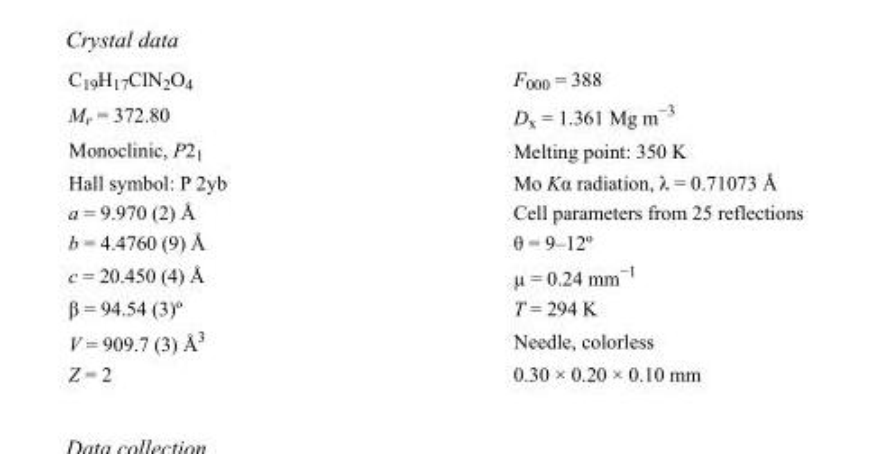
<table><tbody><tr><td>C<sub>19</sub>H<sub>17</sub>ClN<sub>2</sub>O<sub>4</sub></td><td>F000 = 388</td></tr><tr><td>M<sub>r</sub> = 372.80</td><td>D<sub>x</sub> = 1.361 Mg m<sup>−3</sup></td></tr><tr><td>Monoclinic, P2<sub>1</sub></td><td>Melting point: 350 K</td></tr><tr><td>Hall symbol: P 2yb</td><td>Mo Kα radiation, λ = 0.71073 Å</td></tr><tr><td>a = 9.970 (2) Å</td><td>Cell parameters from 25 reflections</td></tr><tr><td>b = 4.4760 (9) Å</td><td>θ = 9–12º</td></tr><tr><td>c = 20.450 (4) Å</td><td>µ = 0.24 mm<sup>−1</sup></td></tr><tr><td>β = 94.54 (3)º</td><td>T = 294 K</td></tr><tr><td>V = 909.7 (3) Å<sup>3</sup></td><td>Needle, colorless</td></tr><tr><td>Z = 2</td><td>0.30 × 0.20 × 0.10 mm</td></tr></tbody></table>